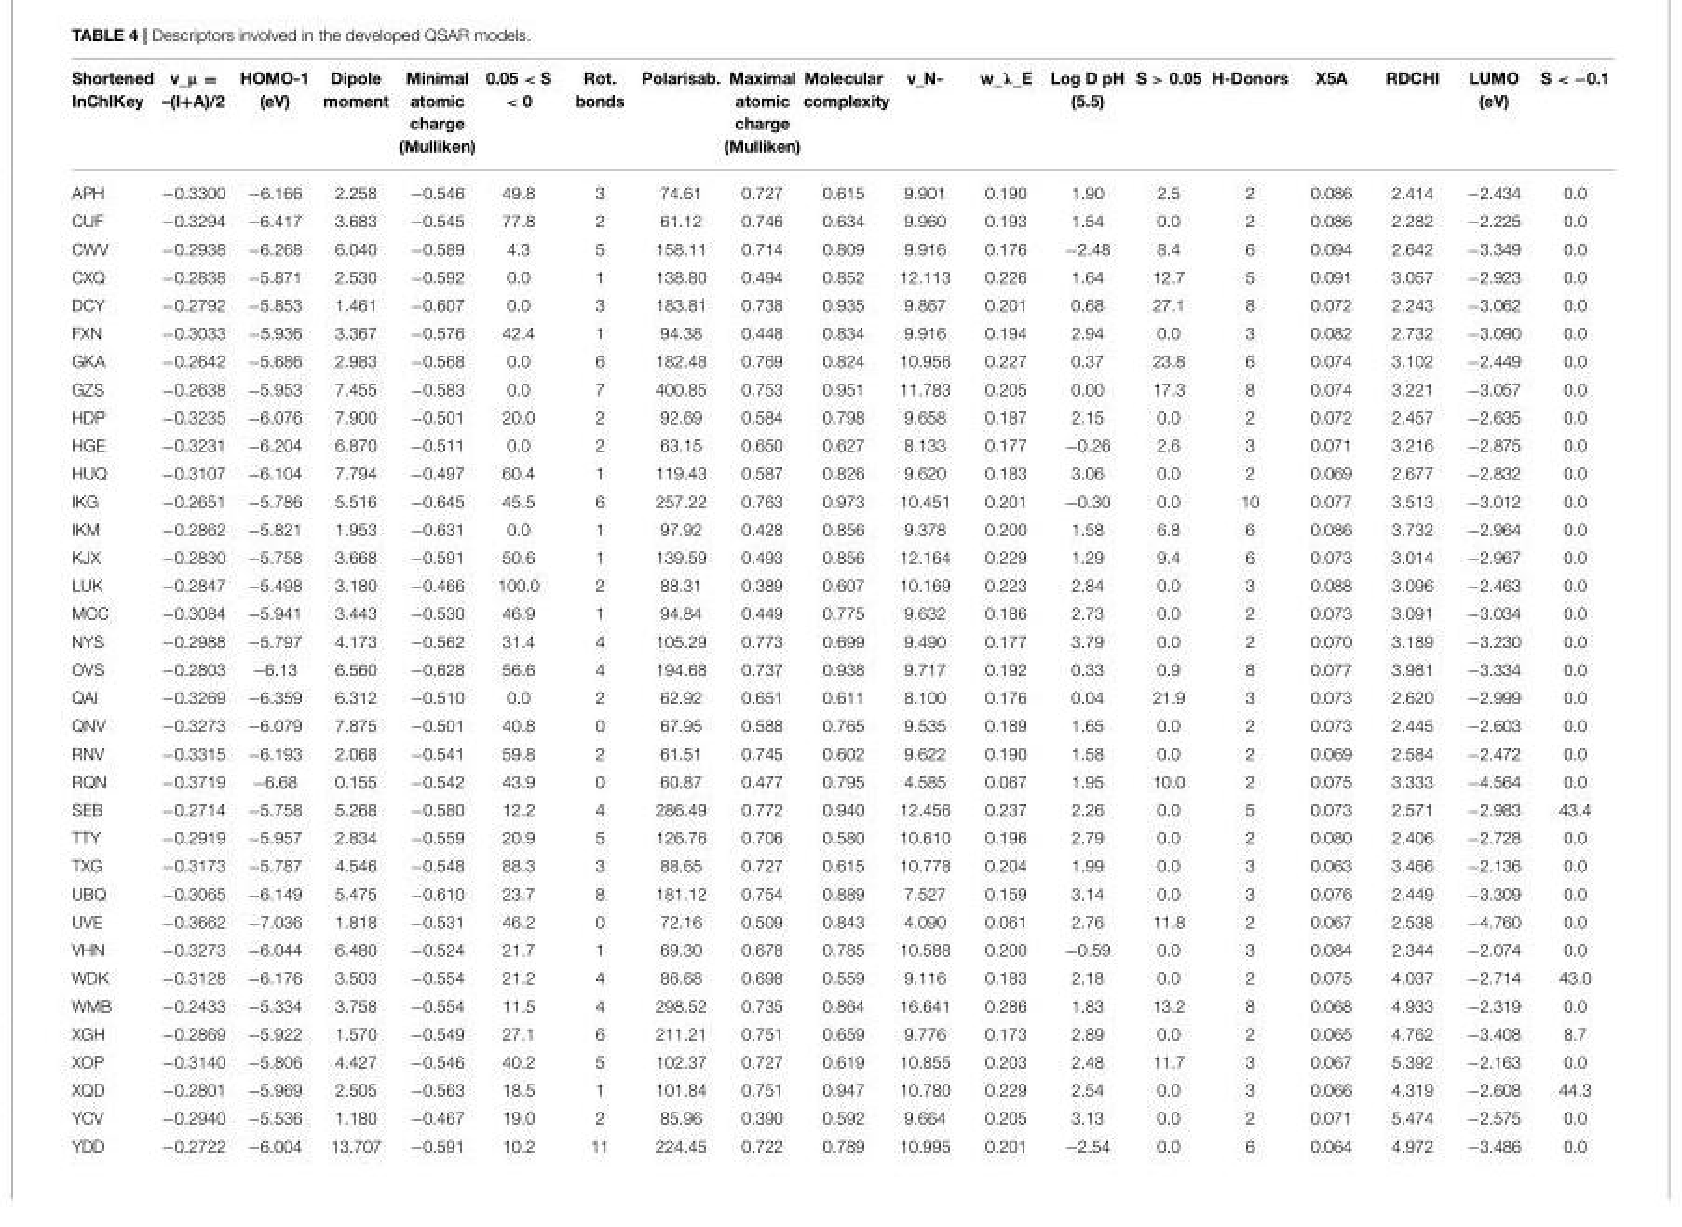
<table><thead><tr><td>Shortened InChIKey</td><td>v_µ = –(I+A)/2</td><td>HOMO-1 (eV)</td><td>Dipole moment</td><td>Minimal atomic charge (Mulliken)</td><td>0.05 &lt; S &lt; 0</td><td>Rot. bonds</td><td>Polarisab.</td><td>Maximal atomic charge (Mulliken)</td><td>Molecular complexity</td><td>v_N-</td><td>w_λ_E</td><td>Log D pH (5.5)</td><td>S &gt; 0.05</td><td>H-Donors</td><td>X5A</td><td>RDCHI</td><td>LUMO (eV)</td><td>S &lt; −0.1</td></tr></thead><tbody><tr><td>APH</td><td>−0.3300</td><td>−6.166</td><td>2.258</td><td>−0.546</td><td>49.8</td><td>3</td><td>74.61</td><td>0.727</td><td>0.615</td><td>9.901</td><td>0.190</td><td>1.90</td><td>2.5</td><td>2</td><td>0.086</td><td>2.414</td><td>−2.434</td><td>0.0</td></tr><tr><td>CUF</td><td>−0.3294</td><td>−6.417</td><td>3.683</td><td>−0.545</td><td>77.8</td><td>2</td><td>61.12</td><td>0.746</td><td>0.634</td><td>9.960</td><td>0.193</td><td>1.54</td><td>0.0</td><td>2</td><td>0.086</td><td>2.282</td><td>−2.225</td><td>0.0</td></tr><tr><td>CWV</td><td>−0.2938</td><td>−6.268</td><td>6.040</td><td>−0.589</td><td>4.3</td><td>5</td><td>158.11</td><td>0.714</td><td>0.809</td><td>9.916</td><td>0.176</td><td>−2.48</td><td>8.4</td><td>6</td><td>0.094</td><td>2.642</td><td>−3.349</td><td>0.0</td></tr><tr><td>CXQ</td><td>−0.2838</td><td>−5.871</td><td>2.530</td><td>−0.592</td><td>0.0</td><td>1</td><td>138.80</td><td>0.494</td><td>0.852</td><td>12.113</td><td>0.226</td><td>1.64</td><td>12.7</td><td>5</td><td>0.091</td><td>3.057</td><td>−2.923</td><td>0.0</td></tr><tr><td>DCY</td><td>−0.2792</td><td>−5.853</td><td>1.461</td><td>−0.607</td><td>0.0</td><td>3</td><td>183.81</td><td>0.738</td><td>0.935</td><td>9.867</td><td>0.201</td><td>0.68</td><td>27.1</td><td>8</td><td>0.072</td><td>2.243</td><td>−3.062</td><td>0.0</td></tr><tr><td>FXN</td><td>−0.3033</td><td>−5.936</td><td>3.367</td><td>−0.576</td><td>42.4</td><td>1</td><td>94.38</td><td>0.448</td><td>0.834</td><td>9.916</td><td>0.194</td><td>2.94</td><td>0.0</td><td>3</td><td>0.082</td><td>2.732</td><td>−3.090</td><td>0.0</td></tr><tr><td>GKA</td><td>−0.2642</td><td>−5.686</td><td>2.983</td><td>−0.568</td><td>0.0</td><td>6</td><td>182.48</td><td>0.769</td><td>0.824</td><td>10.956</td><td>0.227</td><td>0.37</td><td>23.8</td><td>6</td><td>0.074</td><td>3.102</td><td>−2.449</td><td>0.0</td></tr><tr><td>GZS</td><td>−0.2638</td><td>−5.953</td><td>7.455</td><td>−0.583</td><td>0.0</td><td>7</td><td>400.85</td><td>0.753</td><td>0.951</td><td>11.783</td><td>0.205</td><td>0.00</td><td>17.3</td><td>8</td><td>0.074</td><td>3.221</td><td>−3.057</td><td>0.0</td></tr><tr><td>HDP</td><td>−0.3235</td><td>−6.076</td><td>7.900</td><td>−0.501</td><td>20.0</td><td>2</td><td>92.69</td><td>0.584</td><td>0.798</td><td>9.658</td><td>0.187</td><td>2.15</td><td>0.0</td><td>2</td><td>0.072</td><td>2.457</td><td>−2.635</td><td>0.0</td></tr><tr><td>HGE</td><td>−0.3231</td><td>−6.204</td><td>6.870</td><td>−0.511</td><td>0.0</td><td>2</td><td>63.15</td><td>0.650</td><td>0.627</td><td>8.133</td><td>0.177</td><td>−0.26</td><td>2.6</td><td>3</td><td>0.071</td><td>3.216</td><td>−2.875</td><td>0.0</td></tr><tr><td>HUQ</td><td>−0.3107</td><td>−6.104</td><td>7.794</td><td>−0.497</td><td>60.4</td><td>1</td><td>119.43</td><td>0.587</td><td>0.826</td><td>9.620</td><td>0.183</td><td>3.06</td><td>0.0</td><td>2</td><td>0.069</td><td>2.677</td><td>−2.832</td><td>0.0</td></tr><tr><td>IKG</td><td>−0.2651</td><td>−5.786</td><td>5.516</td><td>−0.645</td><td>45.5</td><td>6</td><td>257.22</td><td>0.763</td><td>0.973</td><td>10.451</td><td>0.201</td><td>−0.30</td><td>0.0</td><td>10</td><td>0.077</td><td>3.513</td><td>−3.012</td><td>0.0</td></tr><tr><td>IKM</td><td>−0.2862</td><td>−5.821</td><td>1.953</td><td>−0.631</td><td>0.0</td><td>1</td><td>97.92</td><td>0.428</td><td>0.856</td><td>9.378</td><td>0.200</td><td>1.58</td><td>6.8</td><td>6</td><td>0.086</td><td>3.732</td><td>−2.964</td><td>0.0</td></tr><tr><td>KJX</td><td>−0.2830</td><td>−5.758</td><td>3.668</td><td>−0.591</td><td>50.6</td><td>1</td><td>139.59</td><td>0.493</td><td>0.856</td><td>12.164</td><td>0.229</td><td>1.29</td><td>9.4</td><td>6</td><td>0.073</td><td>3.014</td><td>−2.967</td><td>0.0</td></tr><tr><td>LUK</td><td>−0.2847</td><td>−5.498</td><td>3.180</td><td>−0.466</td><td>100.0</td><td>2</td><td>88.31</td><td>0.389</td><td>0.607</td><td>10.169</td><td>0.223</td><td>2.84</td><td>0.0</td><td>3</td><td>0.088</td><td>3.096</td><td>−2.463</td><td>0.0</td></tr><tr><td>MCC</td><td>−0.3084</td><td>−5.941</td><td>3.443</td><td>−0.530</td><td>46.9</td><td>1</td><td>94.84</td><td>0.449</td><td>0.775</td><td>9.632</td><td>0.186</td><td>2.73</td><td>0.0</td><td>2</td><td>0.073</td><td>3.091</td><td>−3.034</td><td>0.0</td></tr><tr><td>NYS</td><td>−0.2988</td><td>−5.797</td><td>4.173</td><td>−0.562</td><td>31.4</td><td>4</td><td>105.29</td><td>0.773</td><td>0.699</td><td>9.490</td><td>0.177</td><td>3.79</td><td>0.0</td><td>2</td><td>0.070</td><td>3.189</td><td>−3.230</td><td>0.0</td></tr><tr><td>OVS</td><td>−0.2803</td><td>−6.13</td><td>6.560</td><td>−0.628</td><td>56.6</td><td>4</td><td>194.68</td><td>0.737</td><td>0.938</td><td>9.717</td><td>0.192</td><td>0.33</td><td>0.9</td><td>8</td><td>0.077</td><td>3.981</td><td>−3.334</td><td>0.0</td></tr><tr><td>QAI</td><td>−0.3269</td><td>−6.359</td><td>6.312</td><td>−0.510</td><td>0.0</td><td>2</td><td>62.92</td><td>0.651</td><td>0.611</td><td>8.100</td><td>0.176</td><td>0.04</td><td>21.9</td><td>3</td><td>0.073</td><td>2.620</td><td>−2.999</td><td>0.0</td></tr><tr><td>QNV</td><td>−0.3273</td><td>−6.079</td><td>7.875</td><td>−0.501</td><td>40.8</td><td>0</td><td>67.95</td><td>0.588</td><td>0.765</td><td>9.535</td><td>0.189</td><td>1.65</td><td>0.0</td><td>2</td><td>0.073</td><td>2.445</td><td>−2.603</td><td>0.0</td></tr><tr><td>RNV</td><td>−0.3315</td><td>−6.193</td><td>2.068</td><td>−0.541</td><td>59.8</td><td>2</td><td>61.51</td><td>0.745</td><td>0.602</td><td>9.622</td><td>0.190</td><td>1.58</td><td>0.0</td><td>2</td><td>0.069</td><td>2.584</td><td>−2.472</td><td>0.0</td></tr><tr><td>RQN</td><td>−0.3719</td><td>−6.68</td><td>0.155</td><td>−0.542</td><td>43.9</td><td>0</td><td>60.87</td><td>0.477</td><td>0.795</td><td>4.585</td><td>0.067</td><td>1.95</td><td>10.0</td><td>2</td><td>0.075</td><td>3.333</td><td>−4.564</td><td>0.0</td></tr><tr><td>SEB</td><td>−0.2714</td><td>−5.758</td><td>5.268</td><td>−0.580</td><td>12.2</td><td>4</td><td>286.49</td><td>0.772</td><td>0.940</td><td>12.456</td><td>0.237</td><td>2.26</td><td>0.0</td><td>5</td><td>0.073</td><td>2.571</td><td>−2.983</td><td>43.4</td></tr><tr><td>TTY</td><td>−0.2919</td><td>−5.957</td><td>2.834</td><td>−0.559</td><td>20.9</td><td>5</td><td>126.76</td><td>0.706</td><td>0.580</td><td>10.610</td><td>0.196</td><td>2.79</td><td>0.0</td><td>2</td><td>0.080</td><td>2.406</td><td>−2.728</td><td>0.0</td></tr><tr><td>TXG</td><td>−0.3173</td><td>−5.787</td><td>4.546</td><td>−0.548</td><td>88.3</td><td>3</td><td>88.65</td><td>0.727</td><td>0.615</td><td>10.778</td><td>0.204</td><td>1.99</td><td>0.0</td><td>3</td><td>0.063</td><td>3.466</td><td>−2.136</td><td>0.0</td></tr><tr><td>UBQ</td><td>−0.3065</td><td>−6.149</td><td>5.475</td><td>−0.610</td><td>23.7</td><td>8</td><td>181.12</td><td>0.754</td><td>0.889</td><td>7.527</td><td>0.159</td><td>3.14</td><td>0.0</td><td>3</td><td>0.076</td><td>2.449</td><td>−3.309</td><td>0.0</td></tr><tr><td>UVE</td><td>−0.3662</td><td>−7.036</td><td>1.818</td><td>−0.531</td><td>46.2</td><td>0</td><td>72.16</td><td>0.509</td><td>0.843</td><td>4.090</td><td>0.061</td><td>2.76</td><td>11.8</td><td>2</td><td>0.067</td><td>2.538</td><td>−4.760</td><td>0.0</td></tr><tr><td>VHN</td><td>−0.3273</td><td>−6.044</td><td>6.480</td><td>−0.524</td><td>21.7</td><td>1</td><td>69.30</td><td>0.678</td><td>0.785</td><td>10.588</td><td>0.200</td><td>−0.59</td><td>0.0</td><td>3</td><td>0.084</td><td>2.344</td><td>−2.074</td><td>0.0</td></tr><tr><td>WDK</td><td>−0.3128</td><td>−6.176</td><td>3.503</td><td>−0.554</td><td>21.2</td><td>4</td><td>86.68</td><td>0.698</td><td>0.559</td><td>9.116</td><td>0.183</td><td>2.18</td><td>0.0</td><td>2</td><td>0.075</td><td>4.037</td><td>−2.714</td><td>43.0</td></tr><tr><td>WMB</td><td>−0.2433</td><td>−5.334</td><td>3.758</td><td>−0.554</td><td>11.5</td><td>4</td><td>298.52</td><td>0.735</td><td>0.864</td><td>16.641</td><td>0.286</td><td>1.83</td><td>13.2</td><td>8</td><td>0.068</td><td>4.933</td><td>−2.319</td><td>0.0</td></tr><tr><td>XGH</td><td>−0.2869</td><td>−5.922</td><td>1.570</td><td>−0.549</td><td>27.1</td><td>6</td><td>211.21</td><td>0.751</td><td>0.659</td><td>9.776</td><td>0.173</td><td>2.89</td><td>0.0</td><td>2</td><td>0.065</td><td>4.762</td><td>−3.408</td><td>8.7</td></tr><tr><td>XOP</td><td>−0.3140</td><td>−5.806</td><td>4.427</td><td>−0.546</td><td>40.2</td><td>5</td><td>102.37</td><td>0.727</td><td>0.619</td><td>10.855</td><td>0.203</td><td>2.48</td><td>11.7</td><td>3</td><td>0.067</td><td>5.392</td><td>−2.163</td><td>0.0</td></tr><tr><td>XQD</td><td>−0.2801</td><td>−5.969</td><td>2.505</td><td>−0.563</td><td>18.5</td><td>1</td><td>101.84</td><td>0.751</td><td>0.947</td><td>10.780</td><td>0.229</td><td>2.54</td><td>0.0</td><td>3</td><td>0.066</td><td>4.319</td><td>−2.608</td><td>44.3</td></tr><tr><td>YCV</td><td>−0.2940</td><td>−5.536</td><td>1.180</td><td>−0.467</td><td>19.0</td><td>2</td><td>85.96</td><td>0.390</td><td>0.592</td><td>9.664</td><td>0.205</td><td>3.13</td><td>0.0</td><td>2</td><td>0.071</td><td>5.474</td><td>−2.575</td><td>0.0</td></tr><tr><td>YDD</td><td>−0.2722</td><td>−6.004</td><td>13.707</td><td>−0.591</td><td>10.2</td><td>11</td><td>224.45</td><td>0.722</td><td>0.789</td><td>10.995</td><td>0.201</td><td>−2.54</td><td>0.0</td><td>6</td><td>0.064</td><td>4.972</td><td>−3.486</td><td>0.0</td></tr></tbody></table>